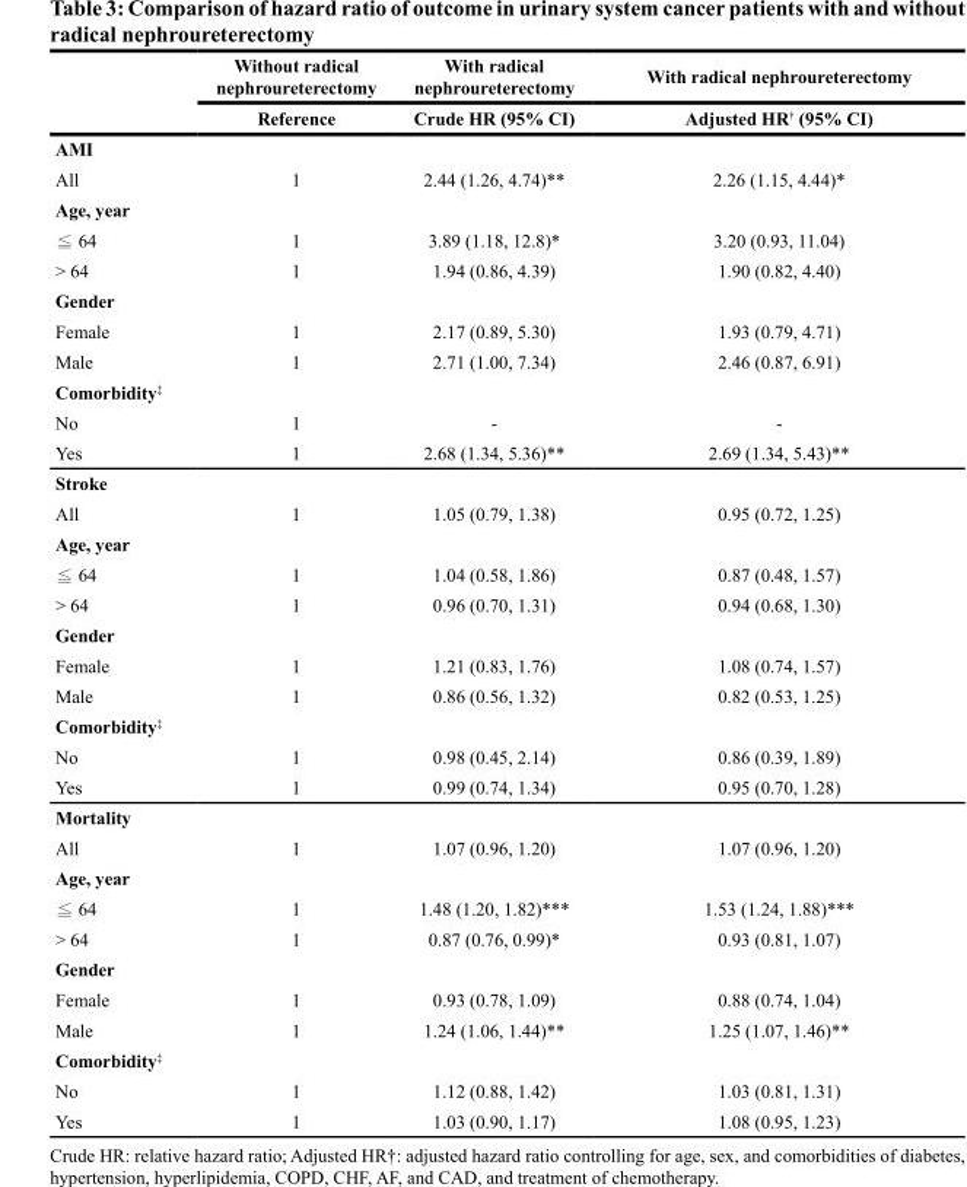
<table><thead><tr><td rowspan="2"></td><td rowspan="2">Without radical nephroureterectomy Reference</td><td rowspan="2">With radical nephroureterectomy Crude HR (95% CI)</td><td rowspan="2">With radical nephroureterectomy Adjusted HR<sup>†</sup> (95% CI)</td></tr><tr></tr></thead><tbody><tr><td colspan="4">AMI</td></tr><tr><td>All</td><td>1</td><td>2.44 (1.26, 4.74)**</td><td>2.26 (1.15, 4.44)*</td></tr><tr><td colspan="4">Age, year</td></tr><tr><td>≦ 64</td><td>1</td><td>3.89 (1.18, 12.8)*</td><td>3.20 (0.93, 11.04)</td></tr><tr><td>&gt; 64</td><td>1</td><td>1.94 (0.86, 4.39)</td><td>1.90 (0.82, 4.40)</td></tr><tr><td colspan="4">Gender</td></tr><tr><td>Female</td><td>1</td><td>2.17 (0.89, 5.30)</td><td>1.93 (0.79, 4.71)</td></tr><tr><td>Male</td><td>1</td><td>2.71 (1.00, 7.34)</td><td>2.46 (0.87, 6.91)</td></tr><tr><td colspan="4">Comorbidity<sup>‡</sup></td></tr><tr><td>No</td><td>1</td><td>-</td><td>-</td></tr><tr><td>Yes</td><td>1</td><td>2.68 (1.34, 5.36)**</td><td>2.69 (1.34, 5.43)**</td></tr><tr><td colspan="4">Stroke</td></tr><tr><td>All</td><td>1</td><td>1.05 (0.79, 1.38)</td><td>0.95 (0.72, 1.25)</td></tr><tr><td colspan="4">Age, year</td></tr><tr><td>≦ 64</td><td>1</td><td>1.04 (0.58, 1.86)</td><td>0.87 (0.48, 1.57)</td></tr><tr><td>&gt; 64</td><td>1</td><td>0.96 (0.70, 1.31)</td><td>0.94 (0.68, 1.30)</td></tr><tr><td colspan="4">Gender</td></tr><tr><td>Female</td><td>1</td><td>1.21 (0.83, 1.76)</td><td>1.08 (0.74, 1.57)</td></tr><tr><td>Male</td><td>1</td><td>0.86 (0.56, 1.32)</td><td>0.82 (0.53, 1.25)</td></tr><tr><td colspan="4">Comorbidity<sup>‡</sup></td></tr><tr><td>No</td><td>1</td><td>0.98 (0.45, 2.14)</td><td>0.86 (0.39, 1.89)</td></tr><tr><td>Yes</td><td>1</td><td>0.99 (0.74, 1.34)</td><td>0.95 (0.70, 1.28)</td></tr><tr><td colspan="4">Mortality</td></tr><tr><td>All</td><td>1</td><td>1.07 (0.96, 1.20)</td><td>1.07 (0.96, 1.20)</td></tr><tr><td colspan="4">Age, year</td></tr><tr><td>≦ 64</td><td>1</td><td>1.48 (1.20, 1.82)***</td><td>1.53 (1.24, 1.88)***</td></tr><tr><td>&gt; 64</td><td>1</td><td>0.87 (0.76, 0.99)*</td><td>0.93 (0.81, 1.07)</td></tr><tr><td colspan="4">Gender</td></tr><tr><td>Female</td><td>1</td><td>0.93 (0.78, 1.09)</td><td>0.88 (0.74, 1.04)</td></tr><tr><td>Male</td><td>1</td><td>1.24 (1.06, 1.44)**</td><td>1.25 (1.07, 1.46)**</td></tr><tr><td colspan="4">Comorbidity<sup>‡</sup></td></tr><tr><td>No</td><td>1</td><td>1.12 (0.88, 1.42)</td><td>1.03 (0.81, 1.31)</td></tr><tr><td>Yes</td><td>1</td><td>1.03 (0.90, 1.17)</td><td>1.08 (0.95, 1.23)</td></tr></tbody></table>